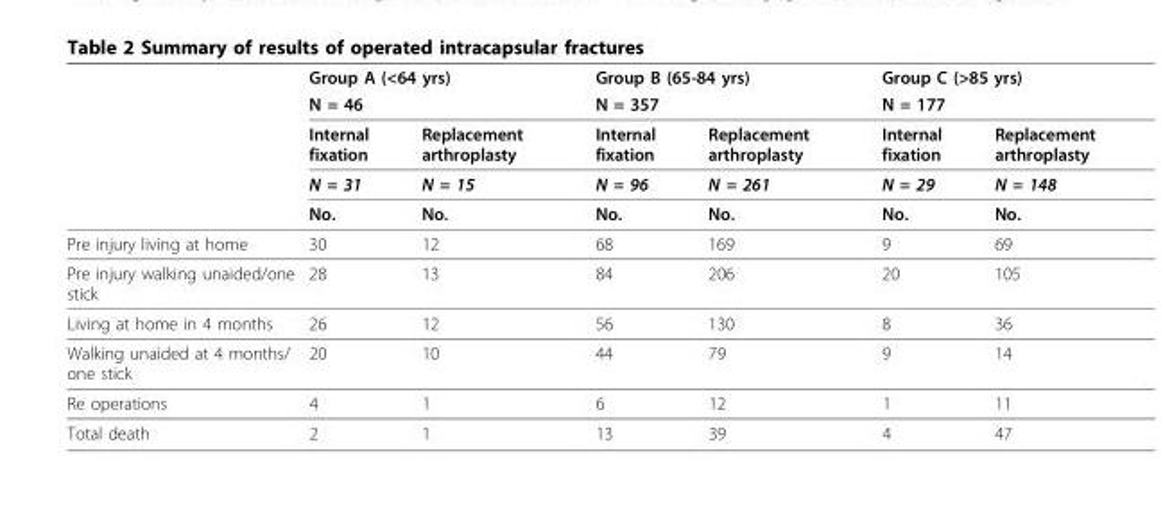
<table><thead><tr><td rowspan="5"></td><td rowspan="2" colspan="2">Group A (&lt;64 yrs) N = 46</td><td rowspan="2" colspan="2">Group B (65-84 yrs) N = 357</td><td rowspan="2" colspan="2">Group C (&gt;85 yrs) N = 177</td></tr><tr></tr><tr><td rowspan="3">Internal fixation N = 31 No.</td><td rowspan="3">Replacement arthroplasty N = 15 No.</td><td rowspan="3">Internal fixation N = 96 No.</td><td rowspan="3">Replacement arthroplasty N = 261 No.</td><td rowspan="3">Internal fixation N = 29 No.</td><td rowspan="3">Replacement arthroplasty N = 148 No.</td></tr><tr></tr><tr></tr></thead><tbody><tr><td>Pre injury living at home</td><td>30</td><td>12</td><td>68</td><td>169</td><td>9</td><td>69</td></tr><tr><td>Pre injury walking unaided/one stick</td><td>28</td><td>13</td><td>84</td><td>206</td><td>20</td><td>105</td></tr><tr><td>Living at home in 4 months</td><td>26</td><td>12</td><td>56</td><td>130</td><td>8</td><td>36</td></tr><tr><td>Walking unaided at 4 months/ one stick</td><td>20</td><td>10</td><td>44</td><td>79</td><td>9</td><td>14</td></tr><tr><td>Re operations</td><td>4</td><td>1</td><td>6</td><td>12</td><td>1</td><td>11</td></tr><tr><td>Total death</td><td>2</td><td>1</td><td>13</td><td>39</td><td>4</td><td>47</td></tr></tbody></table>